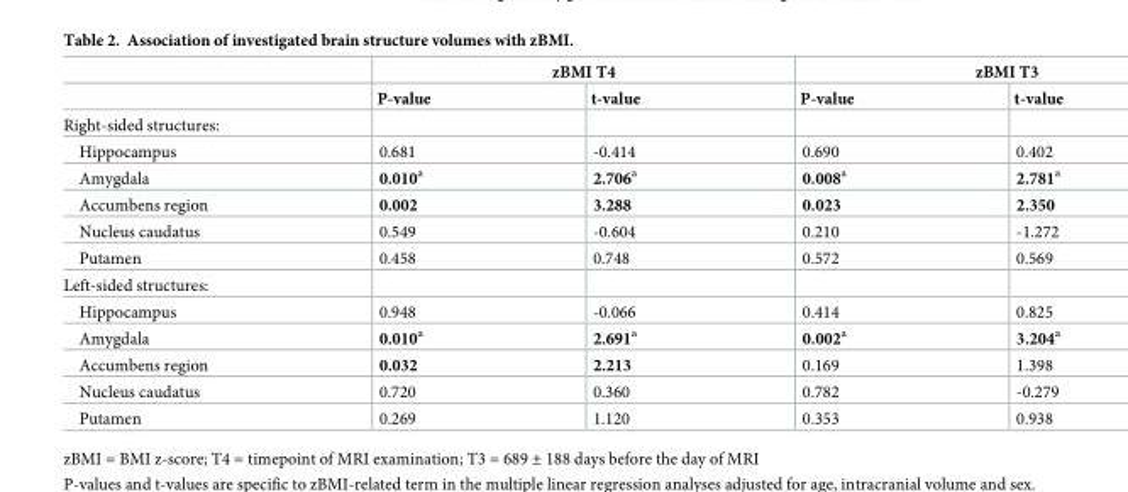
<table><thead><tr><td rowspan="2"></td><td colspan="2">zBMI T4</td><td colspan="2">zBMI T3</td></tr><tr><td>P-value</td><td>t-value</td><td>P-value</td><td>t-value</td></tr></thead><tbody><tr><td colspan="5">Right-sided structures:</td></tr><tr><td>Hippocampus</td><td>0.681</td><td>-0.414</td><td>0.690</td><td>0.402</td></tr><tr><td>Amygdala</td><td>0.010<sup>a</sup></td><td>2.706<sup>a</sup></td><td>0.008<sup>a</sup></td><td>2.781<sup>a</sup></td></tr><tr><td>Accumbens region</td><td>0.002</td><td>3.288</td><td>0.023</td><td>2.350</td></tr><tr><td>Nucleus caudatus</td><td>0.549</td><td>-0.604</td><td>0.210</td><td>-1.272</td></tr><tr><td>Putamen</td><td>0.458</td><td>0.748</td><td>0.572</td><td>0.569</td></tr><tr><td colspan="5">Left-sided structures:</td></tr><tr><td>Hippocampus</td><td>0.948</td><td>-0.066</td><td>0.414</td><td>0.825</td></tr><tr><td>Amygdala</td><td>0.010<sup>a</sup></td><td>2.691<sup>a</sup></td><td>0.002<sup>a</sup></td><td>3.204<sup>a</sup></td></tr><tr><td>Accumbens region</td><td>0.032</td><td>2.213</td><td>0.169</td><td>1.398</td></tr><tr><td>Nucleus caudatus</td><td>0.720</td><td>0.360</td><td>0.782</td><td>-0.279</td></tr><tr><td>Putamen</td><td>0.269</td><td>1.120</td><td>0.353</td><td>0.938</td></tr></tbody></table>